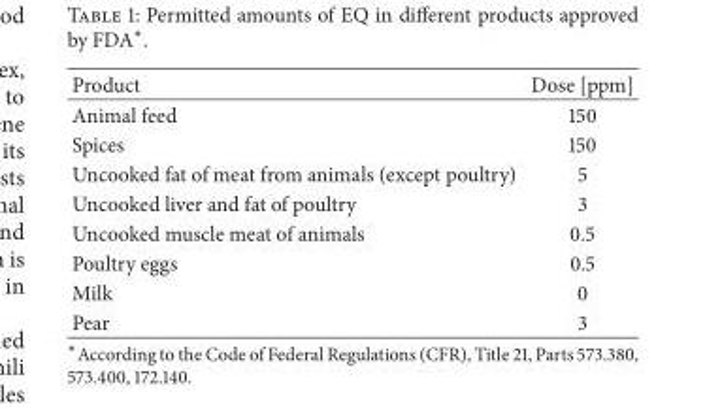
<table><thead><tr><td>Product</td><td>Dose [ppm]</td></tr></thead><tbody><tr><td>Animal feed</td><td>150</td></tr><tr><td>Spices</td><td>150</td></tr><tr><td>Uncooked fat of meat from animals (except poultry)</td><td>5</td></tr><tr><td>Uncooked liver and fat of poultry</td><td>3</td></tr><tr><td>Uncooked muscle meat of animals</td><td>0.5</td></tr><tr><td>Poultry eggs</td><td>0.5</td></tr><tr><td>Milk</td><td>0</td></tr><tr><td>Pear</td><td>3</td></tr></tbody></table>